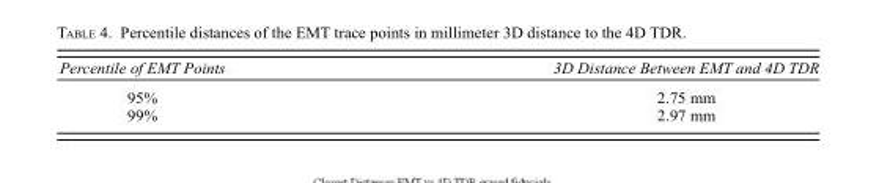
<table><thead><tr><td>Percentile of EMT Points</td><td>3D Distance Between EMT and 4D TDR</td></tr></thead><tbody><tr><td>95%</td><td>2.75 mm</td></tr><tr><td>99%</td><td>2.97 mm</td></tr></tbody></table>